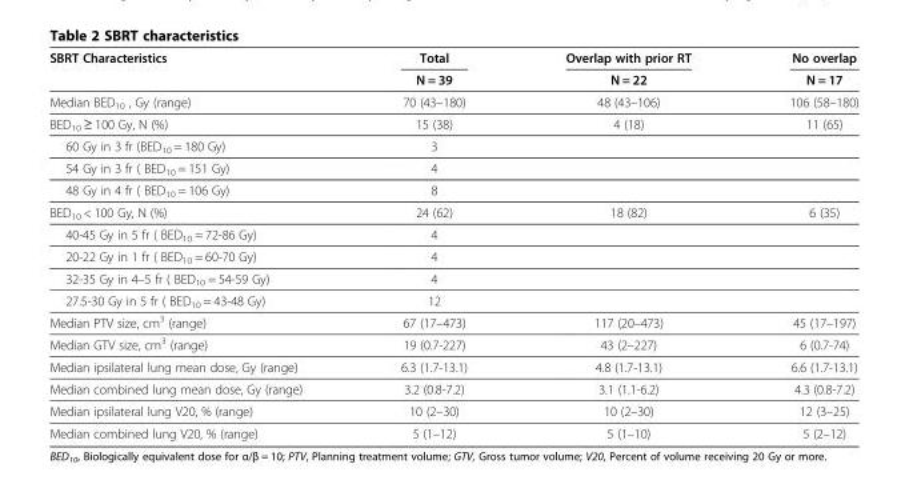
<table><thead><tr><td rowspan="2">SBRT Characteristics</td><td rowspan="2">Total N = 39</td><td rowspan="2">Overlap with prior RT N = 22</td><td rowspan="2">No overlap N = 17</td></tr><tr></tr></thead><tbody><tr><td>Median BED<sub>10</sub> , Gy (range)</td><td>70 (43–180)</td><td>48 (43–106)</td><td>106 (58–180)</td></tr><tr><td>BED<sub>10</sub> ≥ 100 Gy, N (%)</td><td>15 (38)</td><td>4 (18)</td><td>11 (65)</td></tr><tr><td>60 Gy in 3 fr (BED<sub>10</sub> = 180 Gy)</td><td>3</td><td></td><td></td></tr><tr><td>54 Gy in 3 fr ( BED<sub>10</sub> = 151 Gy)</td><td>4</td><td></td><td></td></tr><tr><td>48 Gy in 4 fr ( BED<sub>10</sub> = 106 Gy)</td><td>8</td><td></td><td></td></tr><tr><td>BED<sub>10</sub> &lt; 100 Gy, N (%)</td><td>24 (62)</td><td>18 (82)</td><td>6 (35)</td></tr><tr><td>40-45 Gy in 5 fr ( BED<sub>10</sub> = 72-86 Gy)</td><td>4</td><td></td><td></td></tr><tr><td>20-22 Gy in 1 fr ( BED<sub>10</sub> = 60-70 Gy)</td><td>4</td><td></td><td></td></tr><tr><td>32-35 Gy in 4–5 fr ( BED<sub>10</sub> = 54-59 Gy)</td><td>4</td><td></td><td></td></tr><tr><td>27.5-30 Gy in 5 fr ( BED<sub>10</sub> = 43-48 Gy)</td><td>12</td><td></td><td></td></tr><tr><td>Median PTV size, cm<sup>3</sup> (range)</td><td>67 (17–473)</td><td>117 (20–473)</td><td>45 (17–197)</td></tr><tr><td>Median GTV size, cm<sup>3</sup> (range)</td><td>19 (0.7-227)</td><td>43 (2–227)</td><td>6 (0.7-74)</td></tr><tr><td>Median ipsilateral lung mean dose, Gy (range)</td><td>6.3 (1.7-13.1)</td><td>4.8 (1.7-13.1)</td><td>6.6 (1.7-13.1)</td></tr><tr><td>Median combined lung mean dose, Gy (range)</td><td>3.2 (0.8-7.2)</td><td>3.1 (1.1-6.2)</td><td>4.3 (0.8-7.2)</td></tr><tr><td>Median ipsilateral lung V20, % (range)</td><td>10 (2–30)</td><td>10 (2–30)</td><td>12 (3–25)</td></tr><tr><td>Median combined lung V20, % (range)</td><td>5 (1–12)</td><td>5 (1–10)</td><td>5 (2–12)</td></tr></tbody></table>